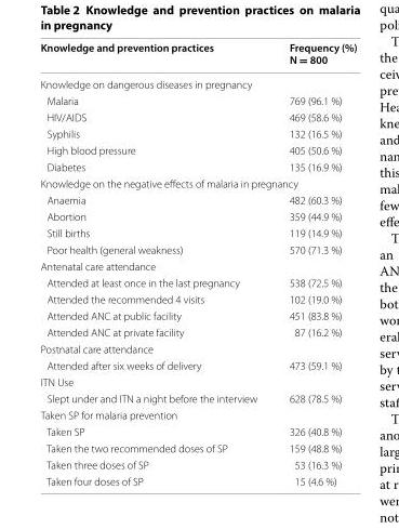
<table><thead><tr><td>Knowledge and prevention practices</td><td>Frequency (%) N = 800</td></tr></thead><tbody><tr><td colspan="2">Knowledge on dangerous diseases in pregnancy</td></tr><tr><td>Malaria</td><td>769 (96.1 %)</td></tr><tr><td>HIV/AIDS</td><td>469 (58.6 %)</td></tr><tr><td>Syphilis</td><td>132 (16.5 %)</td></tr><tr><td>High blood pressure</td><td>405 (50.6 %)</td></tr><tr><td>Diabetes</td><td>135 (16.9 %)</td></tr><tr><td colspan="2">Knowledge on the negative effects of malaria in pregnancy</td></tr><tr><td>Anaemia</td><td>482 (60.3 %)</td></tr><tr><td>Abortion</td><td>359 (44.9 %)</td></tr><tr><td>Still births</td><td>119 (14.9 %)</td></tr><tr><td>Poor health (general weakness)</td><td>570 (71.3 %)</td></tr><tr><td colspan="2">Antenatal care attendance</td></tr><tr><td>Attended at least once in the last pregnancy</td><td>538 (72.5 %)</td></tr><tr><td>Attended the recommended 4 visits</td><td>102 (19.0 %)</td></tr><tr><td>Attended ANC at public facility</td><td>451 (83.8 %)</td></tr><tr><td>Attended ANC at private facility</td><td>87 (16.2 %)</td></tr><tr><td colspan="2">Postnatal care attendance</td></tr><tr><td>Attended after six weeks of delivery</td><td>473 (59.1 %)</td></tr><tr><td colspan="2">ITN Use</td></tr><tr><td>Slept under and ITN a night before the interview</td><td>628 (78.5 %)</td></tr><tr><td colspan="2">Taken SP for malaria prevention</td></tr><tr><td>Taken SP</td><td>326 (40.8 %)</td></tr><tr><td>Taken the two recommended doses of SP</td><td>159 (48.8 %)</td></tr><tr><td>Taken three doses of SP</td><td>53 (16.3 %)</td></tr><tr><td>Taken four doses of SP</td><td>15 (4.6 %)</td></tr></tbody></table>